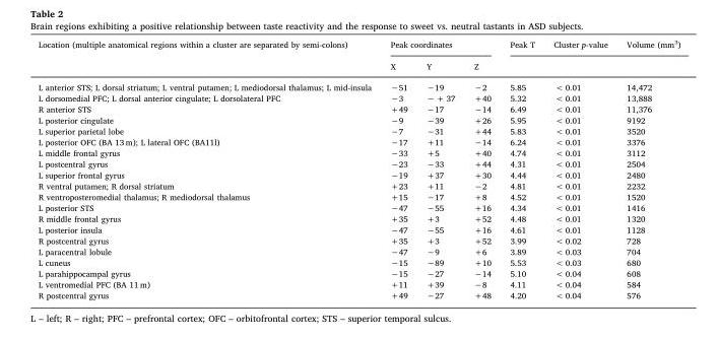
<table><thead><tr><td rowspan="2">Location (multiple anatomical regions within a cluster are separated by semi-colons)</td><td colspan="3">Peak coordinates</td><td rowspan="2">Peak T</td><td rowspan="2">Cluster p-value</td><td rowspan="2">Volume (mm<sup>3</sup>)</td></tr><tr><td>X</td><td>Y</td><td>Z</td></tr></thead><tbody><tr><td>L anterior STS; L dorsal striatum; L ventral putamen; L mediodorsal thalamus; L mid-insula</td><td>−51</td><td>−19</td><td>−2</td><td>5.85</td><td>&lt; 0.01</td><td>14,472</td></tr><tr><td>L dorsomedial PFC; L dorsal anterior cingulate; L dorsolateral PFC</td><td>−3</td><td>− + 37</td><td>+40</td><td>5.32</td><td>&lt; 0.01</td><td>13,888</td></tr><tr><td>R anterior STS</td><td>+49</td><td>−17</td><td>−14</td><td>6.49</td><td>&lt; 0.01</td><td>11,376</td></tr><tr><td>L posterior cingulate</td><td>−9</td><td>−39</td><td>+26</td><td>5.95</td><td>&lt; 0.01</td><td>9192</td></tr><tr><td>L superior parietal lobe</td><td>−7</td><td>−31</td><td>+44</td><td>5.83</td><td>&lt; 0.01</td><td>3520</td></tr><tr><td>L posterior OFC (BA 13 m); L lateral OFC (BA11l)</td><td>−17</td><td>+11</td><td>−14</td><td>6.24</td><td>&lt; 0.01</td><td>3376</td></tr><tr><td>L middle frontal gyrus</td><td>−33</td><td>+5</td><td>+40</td><td>4.74</td><td>&lt; 0.01</td><td>3112</td></tr><tr><td>L postcentral gyrus</td><td>−23</td><td>−33</td><td>+44</td><td>4.31</td><td>&lt; 0.01</td><td>2504</td></tr><tr><td>L superior frontal gyrus</td><td>−19</td><td>+37</td><td>+30</td><td>4.44</td><td>&lt; 0.01</td><td>2480</td></tr><tr><td>R ventral putamen; R dorsal striatum</td><td>+23</td><td>+11</td><td>−2</td><td>4.81</td><td>&lt; 0.01</td><td>2232</td></tr><tr><td>R ventroposteromedial thalamus; R mediodorsal thalamus</td><td>+15</td><td>−17</td><td>+8</td><td>4.52</td><td>&lt; 0.01</td><td>1520</td></tr><tr><td>L posterior STS</td><td>−47</td><td>−55</td><td>+16</td><td>4.34</td><td>&lt; 0.01</td><td>1416</td></tr><tr><td>R middle frontal gyrus</td><td>+35</td><td>+3</td><td>+52</td><td>4.48</td><td>&lt; 0.01</td><td>1320</td></tr><tr><td>L posterior insula</td><td>−47</td><td>−55</td><td>+16</td><td>4.61</td><td>&lt; 0.01</td><td>1128</td></tr><tr><td>R postcentral gyrus</td><td>+35</td><td>+3</td><td>+52</td><td>3.99</td><td>&lt; 0.02</td><td>728</td></tr><tr><td>L paracentral lobule</td><td>−47</td><td>−9</td><td>+6</td><td>3.89</td><td>&lt; 0.03</td><td>704</td></tr><tr><td>L cuneus</td><td>−15</td><td>−89</td><td>+10</td><td>5.53</td><td>&lt; 0.03</td><td>680</td></tr><tr><td>L parahippocampal gyrus</td><td>−15</td><td>−27</td><td>−14</td><td>5.10</td><td>&lt; 0.04</td><td>608</td></tr><tr><td>L ventromedial PFC (BA 11 m)</td><td>+11</td><td>+39</td><td>−8</td><td>4.11</td><td>&lt; 0.04</td><td>584</td></tr><tr><td>R postcentral gyrus</td><td>+49</td><td>−27</td><td>+48</td><td>4.20</td><td>&lt; 0.04</td><td>576</td></tr></tbody></table>